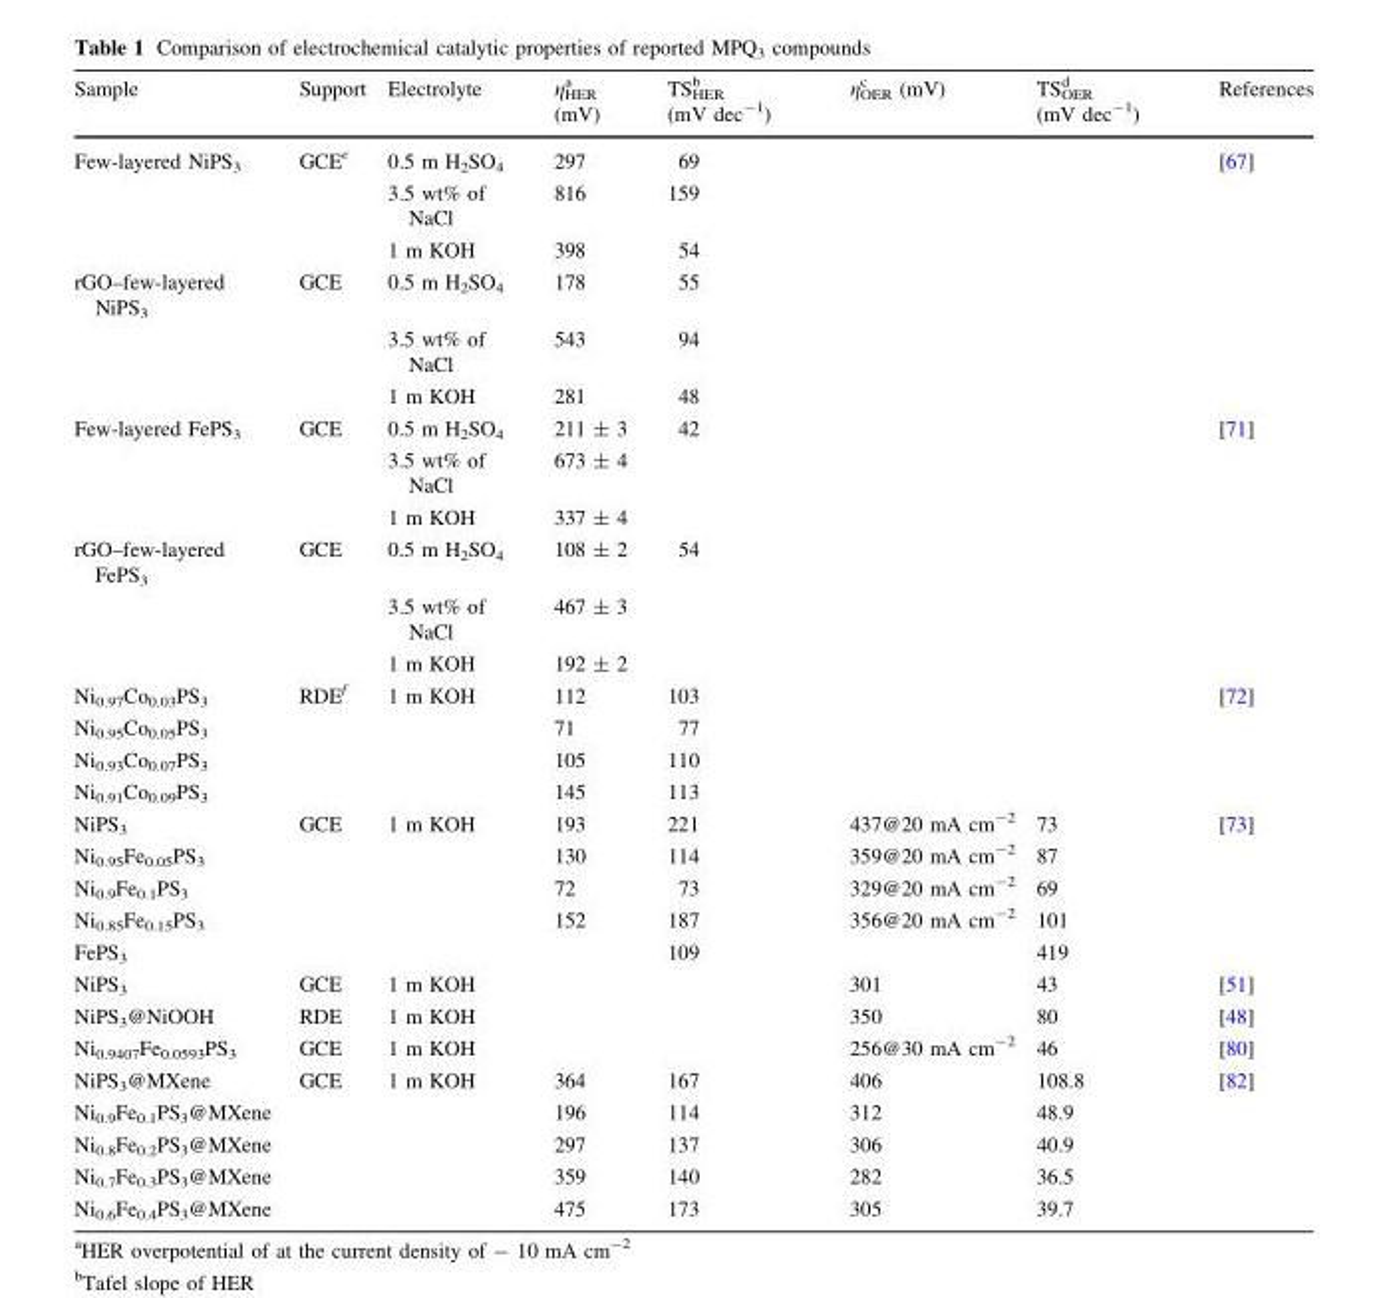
<table><thead><tr><td>Sample</td><td>Support</td><td>Electrolyte</td><td>η<sub>HER</sub> <sup>a</sup> (mV)</td><td>TS<sub>HER</sub> <sup>b</sup> (mV dec<sup>-1</sup>)</td><td>η<sub>OER</sub> <sup>c</sup> (mV)</td><td>TS<sub>OER</sub> <sup>d</sup> (mV dec<sup>-1</sup>)</td><td>References</td></tr></thead><tbody><tr><td rowspan="3">Few-layered NiPS<sub>3</sub></td><td>GCE<sup>e</sup></td><td>0.5 m H<sub>2</sub>SO<sub>4</sub></td><td>297</td><td>69</td><td></td><td></td><td>[67]</td></tr><tr><td></td><td>3.5 wt% of NaCl</td><td>816</td><td>159</td><td></td><td></td><td></td></tr><tr><td></td><td>1 m KOH</td><td>398</td><td>54</td><td></td><td></td><td></td></tr><tr><td rowspan="3">rGO–few-layered NiPS<sub>3</sub></td><td>GCE</td><td>0.5 m H<sub>2</sub>SO<sub>4</sub></td><td>178</td><td>55</td><td></td><td></td><td></td></tr><tr><td></td><td>3.5 wt% of NaCl</td><td>543</td><td>94</td><td></td><td></td><td></td></tr><tr><td></td><td>1 m KOH</td><td>281</td><td>48</td><td></td><td></td><td></td></tr><tr><td rowspan="3">Few-layered FePS<sub>3</sub></td><td>GCE</td><td>0.5 m H<sub>2</sub>SO<sub>4</sub></td><td>211 ± 3</td><td>42</td><td></td><td></td><td>[71]</td></tr><tr><td></td><td>3.5 wt% of NaCl</td><td>673 ± 4</td><td></td><td></td><td></td><td></td></tr><tr><td></td><td>1 m KOH</td><td>337 ± 4</td><td></td><td></td><td></td><td></td></tr><tr><td rowspan="3">rGO–few-layered FePS<sub>3</sub></td><td>GCE</td><td>0.5 m H<sub>2</sub>SO<sub>4</sub></td><td>108 ± 2</td><td>54</td><td></td><td></td><td></td></tr><tr><td></td><td>3.5 wt% of NaCl</td><td>467 ± 3</td><td></td><td></td><td></td><td></td></tr><tr><td></td><td>1 m KOH</td><td>192 ± 2</td><td></td><td></td><td></td><td></td></tr><tr><td>Ni<sub>0.97</sub>Co<sub>0.03</sub>PS<sub>3</sub></td><td>RDE<sup>f</sup></td><td>1 m KOH</td><td>112</td><td>103</td><td></td><td></td><td>[72]</td></tr><tr><td>Ni<sub>0.95</sub>Co<sub>0.05</sub>PS<sub>3</sub></td><td></td><td></td><td>71</td><td>77</td><td></td><td></td><td></td></tr><tr><td>Ni<sub>0.93</sub>Co<sub>0.07</sub>PS<sub>3</sub></td><td></td><td></td><td>105</td><td>110</td><td></td><td></td><td></td></tr><tr><td>Ni<sub>0.91</sub>Co<sub>0.09</sub>PS<sub>3</sub></td><td></td><td></td><td>145</td><td>113</td><td></td><td></td><td></td></tr><tr><td>NiPS<sub>3</sub></td><td>GCE</td><td>1 m KOH</td><td>193</td><td>221</td><td>437@20 mA cm<sup>-2</sup></td><td>73</td><td>[73]</td></tr><tr><td>Ni<sub>0.95</sub>Fe<sub>0.05</sub>PS<sub>3</sub></td><td></td><td></td><td>130</td><td>114</td><td>359@20 mA cm<sup>-2</sup></td><td>87</td><td></td></tr><tr><td>Ni<sub>0.9</sub>Fe<sub>0.1</sub>PS<sub>3</sub></td><td></td><td></td><td>72</td><td>73</td><td>329@20 mA cm<sup>-2</sup></td><td>69</td><td></td></tr><tr><td>Ni<sub>0.85</sub>Fe<sub>0.15</sub>PS<sub>3</sub></td><td></td><td></td><td>152</td><td>187</td><td>356@20 mA cm<sup>-2</sup></td><td>101</td><td></td></tr><tr><td>FePS<sub>3</sub></td><td></td><td></td><td></td><td>109</td><td></td><td>419</td><td></td></tr><tr><td>NiPS<sub>3</sub></td><td>GCE</td><td>1 m KOH</td><td></td><td></td><td>301</td><td>43</td><td>[51]</td></tr><tr><td>NiPS<sub>3</sub>@NiOOH</td><td>RDE</td><td>1 m KOH</td><td></td><td></td><td>350</td><td>80</td><td>[48]</td></tr><tr><td>Ni<sub>0.9407</sub>Fe<sub>0.0593</sub>PS<sub>3</sub></td><td>GCE</td><td>1 m KOH</td><td></td><td></td><td>256@30 mA cm<sup>-2</sup></td><td>46</td><td>[80]</td></tr><tr><td>NiPS<sub>3</sub>@MXene</td><td>GCE</td><td>1 m KOH</td><td>364</td><td>167</td><td>406</td><td>108.8</td><td>[82]</td></tr><tr><td>Ni<sub>0.9</sub>Fe<sub>0.1</sub>PS<sub>3</sub>@MXene</td><td></td><td></td><td>196</td><td>114</td><td>312</td><td>48.9</td><td></td></tr><tr><td>Ni<sub>0.8</sub>Fe<sub>0.2</sub>PS<sub>3</sub>@MXene</td><td></td><td></td><td>297</td><td>137</td><td>306</td><td>40.9</td><td></td></tr><tr><td>Ni<sub>0.7</sub>Fe<sub>0.3</sub>PS<sub>3</sub>@MXene</td><td></td><td></td><td>359</td><td>140</td><td>282</td><td>36.5</td><td></td></tr><tr><td>Ni<sub>0.6</sub>Fe<sub>0.4</sub>PS<sub>3</sub>@MXene</td><td></td><td></td><td>475</td><td>173</td><td>305</td><td>39.7</td><td></td></tr></tbody></table>